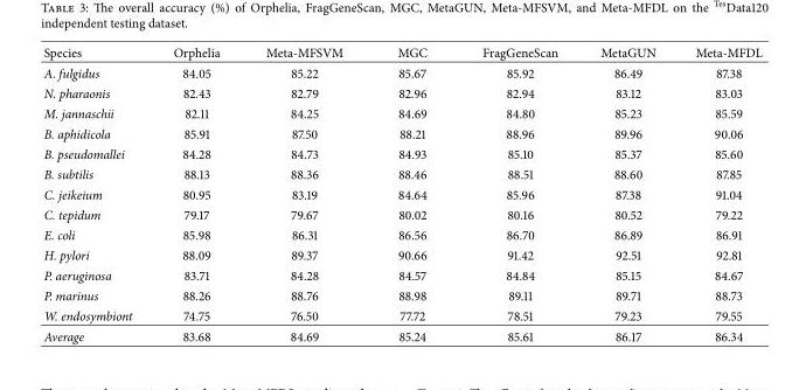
<table><thead><tr><td>Species</td><td>Orphelia</td><td>Meta-MFSVM</td><td>MGC</td><td>FragGeneScan</td><td>MetaGUN</td><td>Meta-MFDL</td></tr></thead><tbody><tr><td>A. fulgidus</td><td>84.05</td><td>85.22</td><td>85.67</td><td>85.92</td><td>86.49</td><td>87.38</td></tr><tr><td>N. pharaonis</td><td>82.43</td><td>82.79</td><td>82.96</td><td>82.94</td><td>83.12</td><td>83.03</td></tr><tr><td>M. jannaschii</td><td>82.11</td><td>84.25</td><td>84.69</td><td>84.80</td><td>85.23</td><td>85.59</td></tr><tr><td>B. aphidicola</td><td>85.91</td><td>87.50</td><td>88.21</td><td>88.96</td><td>89.96</td><td>90.06</td></tr><tr><td>B. pseudomallei</td><td>84.28</td><td>84.73</td><td>84.93</td><td>85.10</td><td>85.37</td><td>85.60</td></tr><tr><td>B. subtilis</td><td>88.13</td><td>88.36</td><td>88.46</td><td>88.51</td><td>88.60</td><td>87.85</td></tr><tr><td>C. jeikeium</td><td>80.95</td><td>83.19</td><td>84.64</td><td>85.96</td><td>87.38</td><td>91.04</td></tr><tr><td>C. tepidum</td><td>79.17</td><td>79.67</td><td>80.02</td><td>80.16</td><td>80.52</td><td>79.22</td></tr><tr><td>E. coli</td><td>85.98</td><td>86.31</td><td>86.56</td><td>86.70</td><td>86.89</td><td>86.91</td></tr><tr><td>H. pylori</td><td>88.09</td><td>89.37</td><td>90.66</td><td>91.42</td><td>92.51</td><td>92.81</td></tr><tr><td>P. aeruginosa</td><td>83.71</td><td>84.28</td><td>84.57</td><td>84.84</td><td>85.15</td><td>84.67</td></tr><tr><td>P. marinus</td><td>88.26</td><td>88.76</td><td>88.98</td><td>89.11</td><td>89.71</td><td>88.73</td></tr><tr><td>W. endosymbiont</td><td>74.75</td><td>76.50</td><td>77.72</td><td>78.51</td><td>79.23</td><td>79.55</td></tr><tr><td>Average</td><td>83.68</td><td>84.69</td><td>85.24</td><td>85.61</td><td>86.17</td><td>86.34</td></tr></tbody></table>